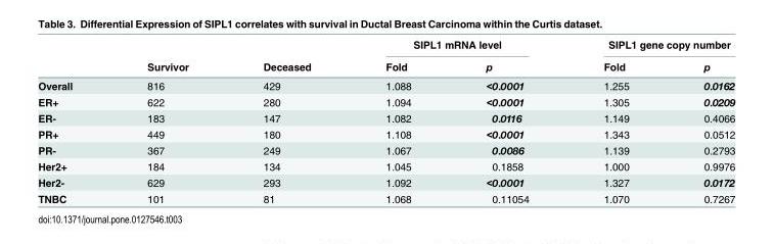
<table><thead><tr><td rowspan="2"></td><td rowspan="2">Survivor</td><td rowspan="2">Deceased</td><td colspan="2">SIPL1 mRNA level</td><td colspan="2">SIPL1 gene copy number</td></tr><tr><td>Fold</td><td>p</td><td>Fold</td><td>p</td></tr></thead><tbody><tr><td>Overall</td><td>816</td><td>429</td><td>1.088</td><td>&lt;0.0001</td><td>1.255</td><td>0.0162</td></tr><tr><td>ER+</td><td>622</td><td>280</td><td>1.094</td><td>&lt;0.0001</td><td>1.305</td><td>0.0209</td></tr><tr><td>ER-</td><td>183</td><td>147</td><td>1.082</td><td>0.0116</td><td>1.149</td><td>0.4066</td></tr><tr><td>PR+</td><td>449</td><td>180</td><td>1.108</td><td>&lt;0.0001</td><td>1.343</td><td>0.0512</td></tr><tr><td>PR-</td><td>367</td><td>249</td><td>1.067</td><td>0.0086</td><td>1.139</td><td>0.2793</td></tr><tr><td>Her2+</td><td>184</td><td>134</td><td>1.045</td><td>0.1858</td><td>1.000</td><td>0.9976</td></tr><tr><td>Her2-</td><td>629</td><td>293</td><td>1.092</td><td>&lt;0.0001</td><td>1.327</td><td>0.0172</td></tr><tr><td>TNBC</td><td>101</td><td>81</td><td>1.068</td><td>0.11054</td><td>1.070</td><td>0.7267</td></tr></tbody></table>